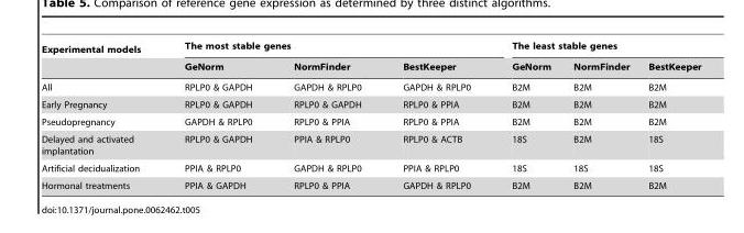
<table><thead><tr><td rowspan="2">Experimental models</td><td colspan="3">The most stable genes</td><td colspan="3">The least stable genes</td></tr><tr><td>GeNorm</td><td>NormFinder</td><td>BestKeeper</td><td>GeNorm</td><td>NormFinder</td><td>BestKeeper</td></tr></thead><tbody><tr><td>All</td><td>RPLP0 &amp; GAPDH</td><td>GAPDH &amp; RPLP0</td><td>GAPDH &amp; RPLP0</td><td>B2M</td><td>B2M</td><td>B2M</td></tr><tr><td>Early Pregnancy</td><td>RPLP0 &amp; GAPDH</td><td>RPLP0 &amp; GAPDH</td><td>RPLP0 &amp; PPIA</td><td>B2M</td><td>B2M</td><td>B2M</td></tr><tr><td>Pseudopregnancy</td><td>GAPDH &amp; RPLP0</td><td>RPLP0 &amp; PPIA</td><td>RPLP0 &amp; PPIA</td><td>B2M</td><td>B2M</td><td>B2M</td></tr><tr><td>Delayed and activated implantation</td><td>RPLP0 &amp; GAPDH</td><td>PPIA &amp; RPLP0</td><td>RPLP0 &amp; ACTB</td><td>18S</td><td>B2M</td><td>18S</td></tr><tr><td>Artificial decidualization</td><td>PPIA &amp; RPLP0</td><td>GAPDH &amp; RPLP0</td><td>PPIA &amp; RPLP0</td><td>18S</td><td>18S</td><td>18S</td></tr><tr><td>Hormonal treatments</td><td>PPIA &amp; GAPDH</td><td>RPLP0 &amp; PPIA</td><td>GAPDH &amp; RPLP0</td><td>B2M</td><td>B2M</td><td>B2M</td></tr></tbody></table>